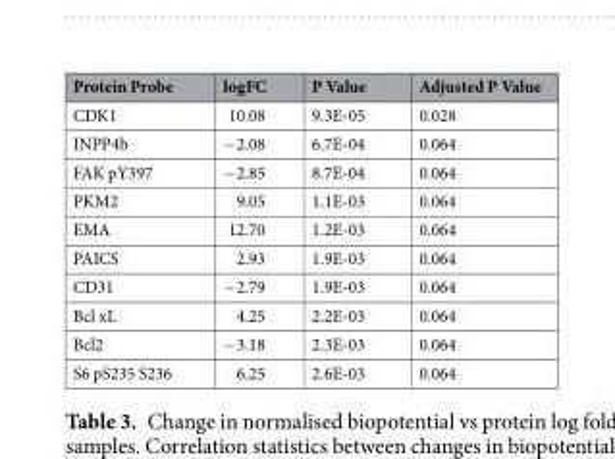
<table><thead><tr><td>Protein Probe</td><td>logFC</td><td>P Value</td><td>Adjusted P Value</td></tr></thead><tbody><tr><td>CDK1</td><td>10.08</td><td>9.3E-05</td><td>0.028</td></tr><tr><td>INPP4b</td><td>−2.08</td><td>6.7E-04</td><td>0.064</td></tr><tr><td>FAK pY397</td><td>−2.85</td><td>8.7E-04</td><td>0.064</td></tr><tr><td>PKM2</td><td>9.05</td><td>1.1E-03</td><td>0.064</td></tr><tr><td>EMA</td><td>12.70</td><td>1.2E-03</td><td>0.064</td></tr><tr><td>PAICS</td><td>2.93</td><td>1.9E-03</td><td>0.064</td></tr><tr><td>CD31</td><td>−2.79</td><td>1.9E-03</td><td>0.064</td></tr><tr><td>Bcl xL</td><td>4.25</td><td>2.2E-03</td><td>0.064</td></tr><tr><td>Bcl2</td><td>−3.18</td><td>2.3E-03</td><td>0.064</td></tr><tr><td>S6 pS235 S236</td><td>6.25</td><td>2.6E-03</td><td>0.064</td></tr></tbody></table>